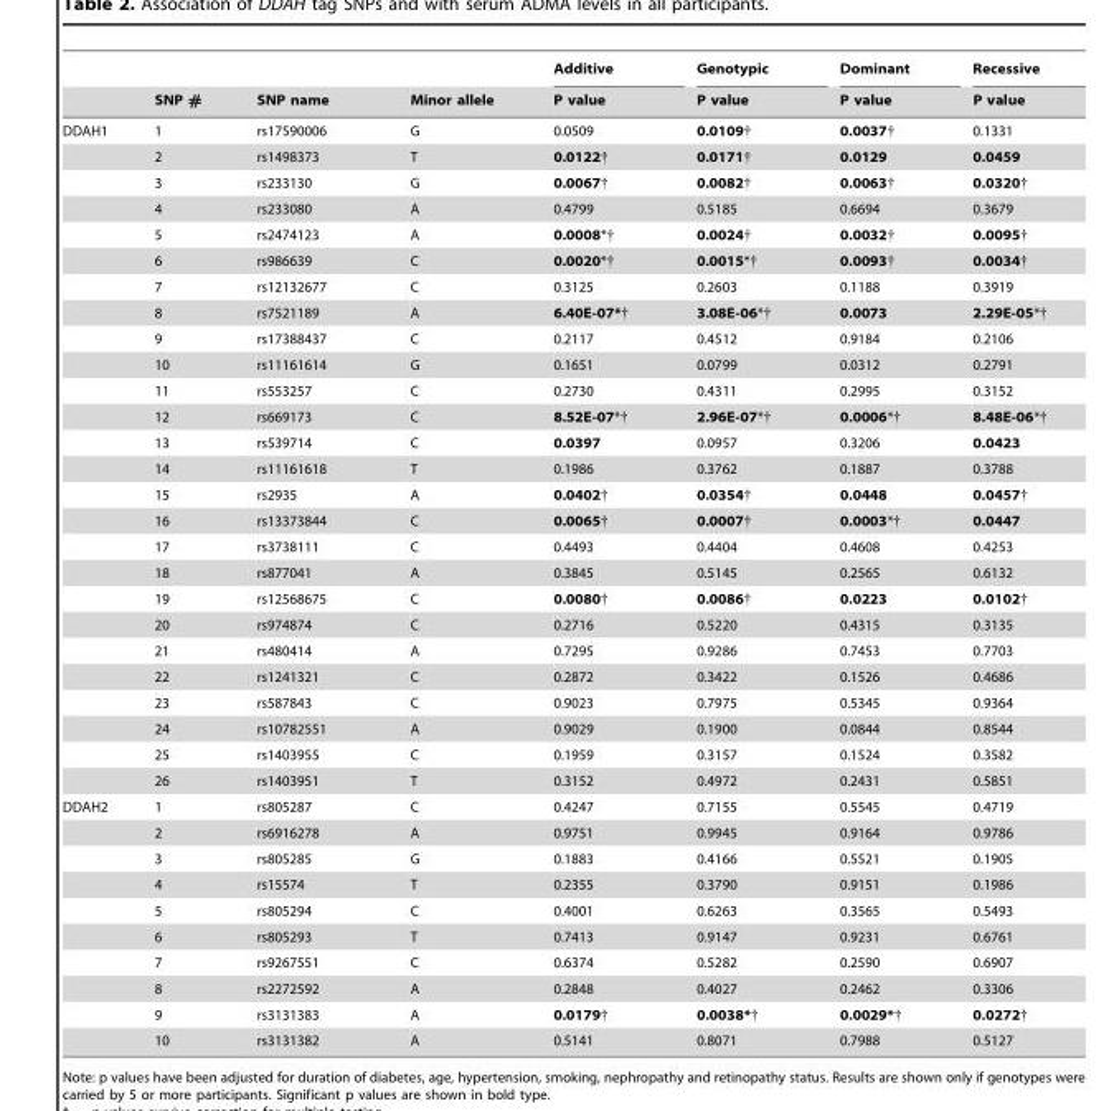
<table><thead><tr><td rowspan="2"></td><td rowspan="2">SNP #</td><td rowspan="2">SNP name</td><td rowspan="2">Minor allele</td><td rowspan="2">Additive P value</td><td rowspan="2">Genotypic P value</td><td rowspan="2">Dominant P value</td><td rowspan="2">Recessive P value</td></tr><tr></tr></thead><tbody><tr><td rowspan="26">DDAH1</td><td>1</td><td>rs17590006</td><td>G</td><td>0.0509</td><td>0.0109†</td><td>0.0037†</td><td>0.1331</td></tr><tr><td>2</td><td>rs1498373</td><td>T</td><td>0.0122†</td><td>0.0171†</td><td>0.0129</td><td>0.0459</td></tr><tr><td>3</td><td>rs233130</td><td>G</td><td>0.0067†</td><td>0.0082†</td><td>0.0063†</td><td>0.0320†</td></tr><tr><td>4</td><td>rs233080</td><td>A</td><td>0.4799</td><td>0.5185</td><td>0.6694</td><td>0.3679</td></tr><tr><td>5</td><td>rs2474123</td><td>A</td><td>0.0008*†</td><td>0.0024†</td><td>0.0032†</td><td>0.0095†</td></tr><tr><td>6</td><td>rs986639</td><td>C</td><td>0.0020*†</td><td>0.0015*†</td><td>0.0093†</td><td>0.0034†</td></tr><tr><td>7</td><td>rs12132677</td><td>C</td><td>0.3125</td><td>0.2603</td><td>0.1188</td><td>0.3919</td></tr><tr><td>8</td><td>rs7521189</td><td>A</td><td>6.40E-07*†</td><td>3.08E-06*†</td><td>0.0073</td><td>2.29E-05*†</td></tr><tr><td>9</td><td>rs17388437</td><td>C</td><td>0.2117</td><td>0.4512</td><td>0.9184</td><td>0.2106</td></tr><tr><td>10</td><td>rs11161614</td><td>G</td><td>0.1651</td><td>0.0799</td><td>0.0312</td><td>0.2791</td></tr><tr><td>11</td><td>rs553257</td><td>C</td><td>0.2730</td><td>0.4311</td><td>0.2995</td><td>0.3152</td></tr><tr><td>12</td><td>rs669173</td><td>C</td><td>8.52E-07*†</td><td>2.96E-07*†</td><td>0.0006*†</td><td>8.48E-06*†</td></tr><tr><td>13</td><td>rs539714</td><td>C</td><td>0.0397</td><td>0.0957</td><td>0.3206</td><td>0.0423</td></tr><tr><td>14</td><td>rs11161618</td><td>T</td><td>0.1986</td><td>0.3762</td><td>0.1887</td><td>0.3788</td></tr><tr><td>15</td><td>rs2935</td><td>A</td><td>0.0402†</td><td>0.0354†</td><td>0.0448</td><td>0.0457†</td></tr><tr><td>16</td><td>rs13373844</td><td>C</td><td>0.0065†</td><td>0.0007†</td><td>0.0003*†</td><td>0.0447</td></tr><tr><td>17</td><td>rs3738111</td><td>C</td><td>0.4493</td><td>0.4404</td><td>0.4608</td><td>0.4253</td></tr><tr><td>18</td><td>rs877041</td><td>A</td><td>0.3845</td><td>0.5145</td><td>0.2565</td><td>0.6132</td></tr><tr><td>19</td><td>rs12568675</td><td>C</td><td>0.0080†</td><td>0.0086†</td><td>0.0223</td><td>0.0102†</td></tr><tr><td>20</td><td>rs974874</td><td>C</td><td>0.2716</td><td>0.5220</td><td>0.4315</td><td>0.3135</td></tr><tr><td>21</td><td>rs480414</td><td>A</td><td>0.7295</td><td>0.9286</td><td>0.7453</td><td>0.7703</td></tr><tr><td>22</td><td>rs1241321</td><td>C</td><td>0.2872</td><td>0.3422</td><td>0.1526</td><td>0.4686</td></tr><tr><td>23</td><td>rs587843</td><td>C</td><td>0.9023</td><td>0.7975</td><td>0.5345</td><td>0.9364</td></tr><tr><td>24</td><td>rs10782551</td><td>A</td><td>0.9029</td><td>0.1900</td><td>0.0844</td><td>0.8544</td></tr><tr><td>25</td><td>rs1403955</td><td>C</td><td>0.1959</td><td>0.3157</td><td>0.1524</td><td>0.3582</td></tr><tr><td>26</td><td>rs1403951</td><td>T</td><td>0.3152</td><td>0.4972</td><td>0.2431</td><td>0.5851</td></tr><tr><td rowspan="10">DDAH2</td><td>1</td><td>rs805287</td><td>C</td><td>0.4247</td><td>0.7155</td><td>0.5545</td><td>0.4719</td></tr><tr><td>2</td><td>rs6916278</td><td>A</td><td>0.9751</td><td>0.9945</td><td>0.9164</td><td>0.9786</td></tr><tr><td>3</td><td>rs805285</td><td>G</td><td>0.1883</td><td>0.4166</td><td>0.5521</td><td>0.1905</td></tr><tr><td>4</td><td>rs15574</td><td>T</td><td>0.2355</td><td>0.3790</td><td>0.9151</td><td>0.1986</td></tr><tr><td>5</td><td>rs805294</td><td>C</td><td>0.4001</td><td>0.6263</td><td>0.3565</td><td>0.5493</td></tr><tr><td>6</td><td>rs805293</td><td>T</td><td>0.7413</td><td>0.9147</td><td>0.9231</td><td>0.6761</td></tr><tr><td>7</td><td>rs9267551</td><td>C</td><td>0.6374</td><td>0.5282</td><td>0.2590</td><td>0.6907</td></tr><tr><td>8</td><td>rs2272592</td><td>A</td><td>0.2848</td><td>0.4027</td><td>0.2462</td><td>0.3306</td></tr><tr><td>9</td><td>rs3131383</td><td>A</td><td>0.0179†</td><td>0.0038*†</td><td>0.0029*†</td><td>0.0272†</td></tr><tr><td>10</td><td>rs3131382</td><td>A</td><td>0.5141</td><td>0.8071</td><td>0.7988</td><td>0.5127</td></tr></tbody></table>